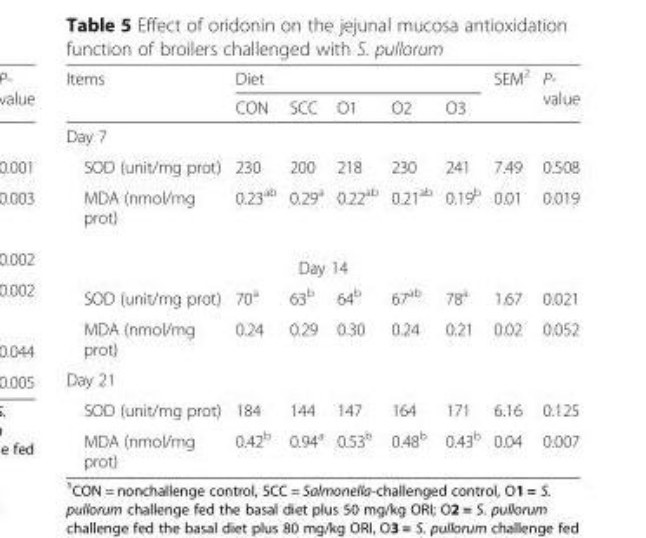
<table><thead><tr><td rowspan="2">Items</td><td colspan="5">Diet</td><td rowspan="2">SEM<sup>2</sup></td><td rowspan="2">P- value</td></tr><tr><td>CON</td><td>SCC</td><td>O1</td><td>O2</td><td>O3</td></tr></thead><tbody><tr><td colspan="8">Day 7</td></tr><tr><td>SOD (unit/mg prot)</td><td>230</td><td>200</td><td>218</td><td>230</td><td>241</td><td>7.49</td><td>0.508</td></tr><tr><td>MDA (nmol/mg prot)</td><td>0.23<sup>ab</sup></td><td>0.29<sup>a</sup></td><td>0.22<sup>ab</sup></td><td>0.21<sup>ab</sup></td><td>0.19<sup>b</sup></td><td>0.01</td><td>0.019</td></tr><tr><td colspan="8">Day 14</td></tr><tr><td>SOD (unit/mg prot)</td><td>70<sup>a</sup></td><td>63<sup>b</sup></td><td>64<sup>b</sup></td><td>67<sup>ab</sup></td><td>78<sup>a</sup></td><td>1.67</td><td>0.021</td></tr><tr><td>MDA (nmol/mg prot)</td><td>0.24</td><td>0.29</td><td>0.30</td><td>0.24</td><td>0.21</td><td>0.02</td><td>0.052</td></tr><tr><td colspan="8">Day 21</td></tr><tr><td>SOD (unit/mg prot)</td><td>184</td><td>144</td><td>147</td><td>164</td><td>171</td><td>6.16</td><td>0.125</td></tr><tr><td>MDA (nmol/mg prot)</td><td>0.42<sup>b</sup></td><td>0.94<sup>a</sup></td><td>0.53<sup>b</sup></td><td>0.48<sup>b</sup></td><td>0.43<sup>b</sup></td><td>0.04</td><td>0.007</td></tr></tbody></table>